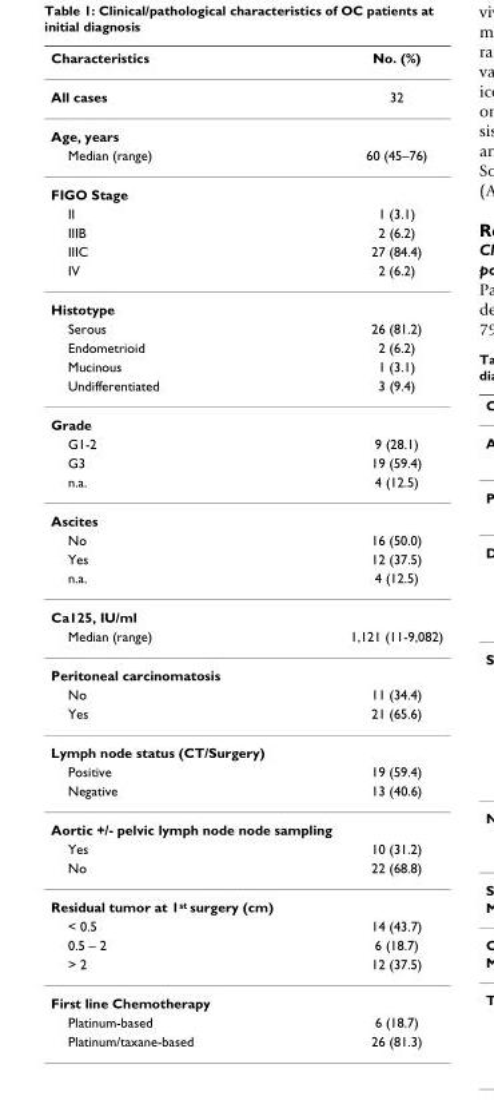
<table><thead><tr><td>Characteristics</td><td>No. (%)</td></tr></thead><tbody><tr><td>All cases</td><td>32</td></tr><tr><td colspan="2">Age, years</td></tr><tr><td>Median (range)</td><td>60 (45–76)</td></tr><tr><td colspan="2">FIGO Stage</td></tr><tr><td>II</td><td>1 (3.1)</td></tr><tr><td>IIIB</td><td>2 (6.2)</td></tr><tr><td>IIIC</td><td>27 (84.4)</td></tr><tr><td>IV</td><td>2 (6.2)</td></tr><tr><td colspan="2">Histotype</td></tr><tr><td>Serous</td><td>26 (81.2)</td></tr><tr><td>Endometrioid</td><td>2 (6.2)</td></tr><tr><td>Mucinous</td><td>1 (3.1)</td></tr><tr><td>Undifferentiated</td><td>3 (9.4)</td></tr><tr><td colspan="2">Grade</td></tr><tr><td>G1-2</td><td>9 (28.1)</td></tr><tr><td>G3</td><td>19 (59.4)</td></tr><tr><td>n.a.</td><td>4 (12.5)</td></tr><tr><td colspan="2">Ascites</td></tr><tr><td>No</td><td>16 (50.0)</td></tr><tr><td>Yes</td><td>12 (37.5)</td></tr><tr><td>n.a.</td><td>4 (12.5)</td></tr><tr><td colspan="2">Ca125, IU/ml</td></tr><tr><td>Median (range)</td><td>1,121 (11-9,082)</td></tr><tr><td colspan="2">Peritoneal carcinomatosis</td></tr><tr><td>No</td><td>11 (34.4)</td></tr><tr><td>Yes</td><td>21 (65.6)</td></tr><tr><td colspan="2">Lymph node status (CT/Surgery)</td></tr><tr><td>Positive</td><td>19 (59.4)</td></tr><tr><td>Negative</td><td>13 (40.6)</td></tr><tr><td colspan="2">Aortic +/- pelvic lymph node node sampling</td></tr><tr><td>Yes</td><td>10 (31.2)</td></tr><tr><td>No</td><td>22 (68.8)</td></tr><tr><td colspan="2">Residual tumor at 1st surgery (cm)</td></tr><tr><td>&lt; 0.5</td><td>14 (43.7)</td></tr><tr><td>0.5 – 2</td><td>6 (18.7)</td></tr><tr><td>&gt; 2</td><td>12 (37.5)</td></tr><tr><td colspan="2">First line Chemotherapy</td></tr><tr><td>Platinum-based</td><td>6 (18.7)</td></tr><tr><td>Platinum/taxane-based</td><td>26 (81.3)</td></tr></tbody></table>